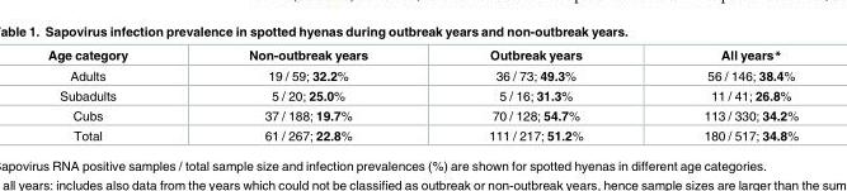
<table><thead><tr><td>Age category</td><td>Non-outbreak years</td><td>Outbreak years</td><td>All years*</td></tr></thead><tbody><tr><td>Adults</td><td>19 / 59; 32.2%</td><td>36 / 73; 49.3%</td><td>56 / 146; 38.4%</td></tr><tr><td>Subadults</td><td>5 / 20; 25.0%</td><td>5 / 16; 31.3%</td><td>11 / 41; 26.8%</td></tr><tr><td>Cubs</td><td>37 / 188; 19.7%</td><td>70 / 128; 54.7%</td><td>113 / 330; 34.2%</td></tr><tr><td>Total</td><td>61 / 267; 22.8%</td><td>111 / 217; 51.2%</td><td>180 / 517; 34.8%</td></tr></tbody></table>